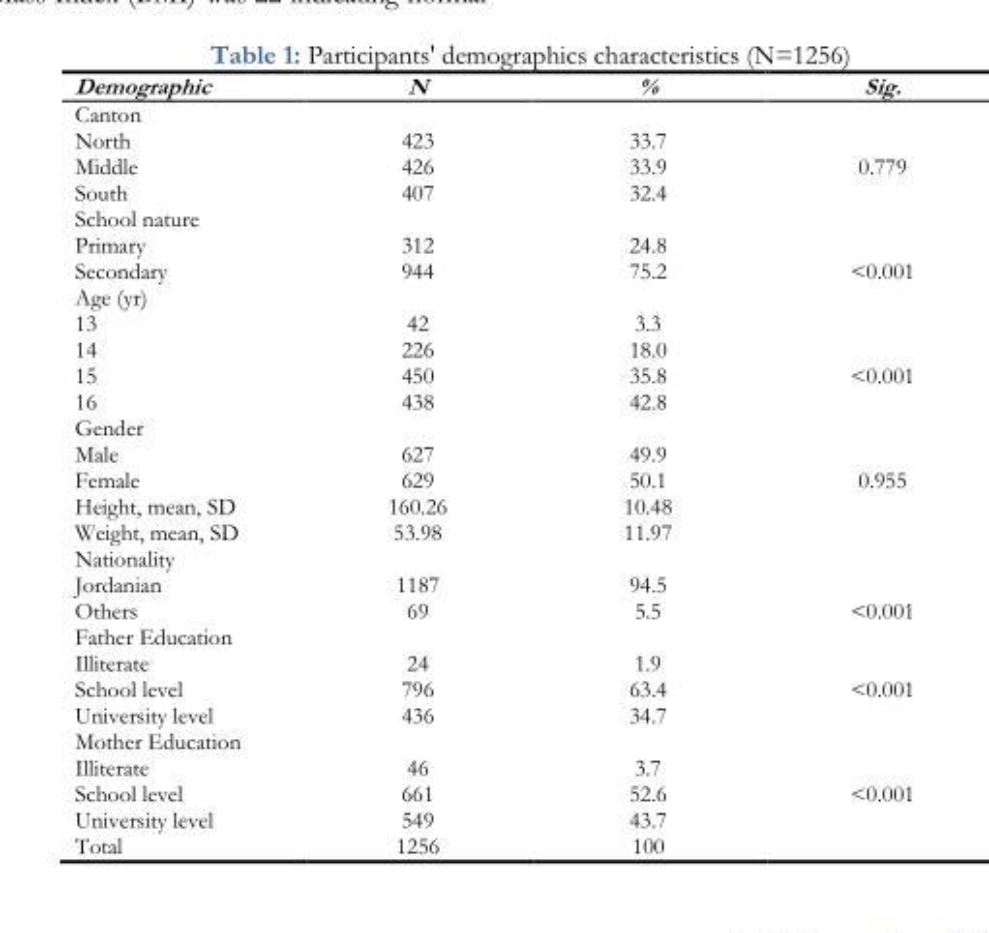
<table><thead><tr><td>Demographic</td><td>N</td><td>%</td><td>Sig.</td></tr></thead><tbody><tr><td colspan="4">Canton</td></tr><tr><td>North</td><td>423</td><td>33.7</td><td rowspan="3">0.779</td></tr><tr><td>Middle</td><td>426</td><td>33.9</td></tr><tr><td>South</td><td>407</td><td>32.4</td></tr><tr><td colspan="4">School nature</td></tr><tr><td>Primary</td><td>312</td><td>24.8</td><td rowspan="2">&lt;0.001</td></tr><tr><td>Secondary</td><td>944</td><td>75.2</td></tr><tr><td colspan="4">Age (yr)</td></tr><tr><td>13</td><td>42</td><td>3.3</td><td rowspan="4">&lt;0.001</td></tr><tr><td>14</td><td>226</td><td>18.0</td></tr><tr><td>15</td><td>450</td><td>35.8</td></tr><tr><td>16</td><td>438</td><td>42.8</td></tr><tr><td colspan="4">Gender</td></tr><tr><td>Male</td><td>627</td><td>49.9</td><td rowspan="4">0.955</td></tr><tr><td>Female</td><td>629</td><td>50.1</td></tr><tr><td>Height, mean, SD</td><td>160.26</td><td>10.48</td></tr><tr><td>Weight, mean, SD</td><td>53.98</td><td>11.97</td></tr><tr><td colspan="4">Nationality</td></tr><tr><td>Jordanian</td><td>1187</td><td>94.5</td><td rowspan="2">&lt;0.001</td></tr><tr><td>Others</td><td>69</td><td>5.5</td></tr><tr><td colspan="4">Father Education</td></tr><tr><td>Illiterate</td><td>24</td><td>1.9</td><td rowspan="3">&lt;0.001</td></tr><tr><td>School level</td><td>796</td><td>63.4</td></tr><tr><td>University level</td><td>436</td><td>34.7</td></tr><tr><td colspan="4">Mother Education</td></tr><tr><td>Illiterate</td><td>46</td><td>3.7</td><td rowspan="3">&lt;0.001</td></tr><tr><td>School level</td><td>661</td><td>52.6</td></tr><tr><td>University level</td><td>549</td><td>43.7</td></tr><tr><td>Total</td><td>1256</td><td>100</td><td></td></tr></tbody></table>